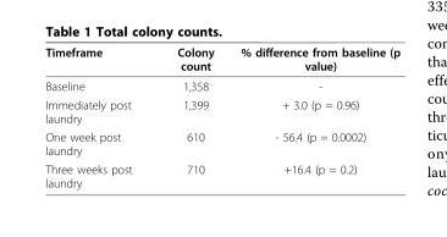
<table><thead><tr><td>Timeframe</td><td>Colony count</td><td>% difference from baseline (p value)</td></tr></thead><tbody><tr><td>Baseline</td><td>1,358</td><td>-</td></tr><tr><td>Immediately post laundry</td><td>1,399</td><td>+ 3.0 (p = 0.96)</td></tr><tr><td>One week post laundry</td><td>610</td><td>- 56.4 (p = 0.0002)</td></tr><tr><td>Three weeks post laundry</td><td>710</td><td>+16.4 (p = 0.2)</td></tr></tbody></table>